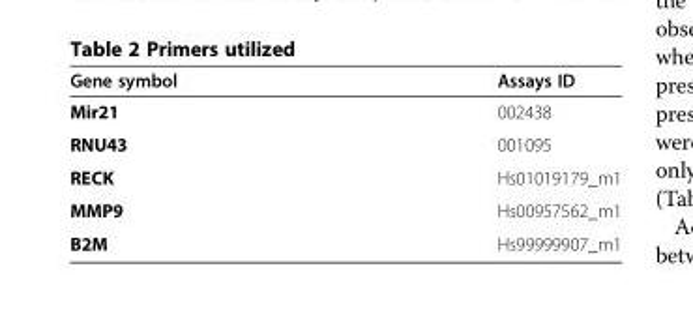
<table><thead><tr><td>Gene symbol</td><td>Assays ID</td></tr></thead><tbody><tr><td>Mir21</td><td>002438</td></tr><tr><td>RNU43</td><td>001095</td></tr><tr><td>RECK</td><td>Hs01019179_m1</td></tr><tr><td>MMP9</td><td>Hs00957562_m1</td></tr><tr><td>B2M</td><td>Hs99999907_m1</td></tr></tbody></table>